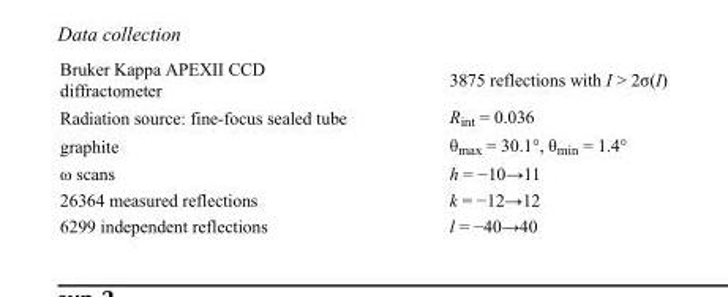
<table><tbody><tr><td>Bruker Kappa APEXII CCD diffractometer</td><td>3875 reflections with I &gt; 2σ(I)</td></tr><tr><td>Radiation source: fine-focus sealed tube</td><td>R<sub>int</sub> = 0.036</td></tr><tr><td>graphite</td><td>θ<sub>max</sub> = 30.1°, θ<sub>min</sub> = 1.4°</td></tr><tr><td>ω scans</td><td>h = −10→11</td></tr><tr><td>26364 measured reflections</td><td>k = −12→12</td></tr><tr><td>6299 independent reflections</td><td>l = −40→40</td></tr></tbody></table>